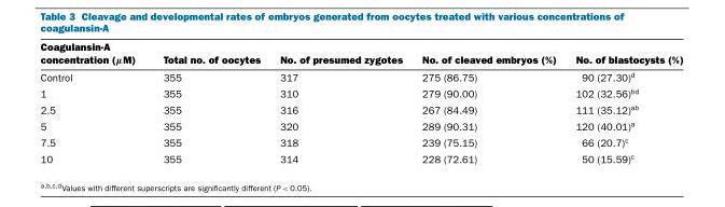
<table><thead><tr><td>Coagulansin-A concentration (μM)</td><td>Total no. of oocytes</td><td>No. of presumed zygotes</td><td>No. of cleaved embryos (%)</td><td>No. of blastocysts (%)</td></tr></thead><tbody><tr><td>Control</td><td>355</td><td>317</td><td>275 (86.75)</td><td>90 (27.30)<sup>d</sup></td></tr><tr><td>1</td><td>355</td><td>310</td><td>279 (90.00)</td><td>102 (32.56)<sup>bd</sup></td></tr><tr><td>2.5</td><td>355</td><td>316</td><td>267 (84.49)</td><td>111 (35.12)<sup>ab</sup></td></tr><tr><td>5</td><td>355</td><td>320</td><td>289 (90.31)</td><td>120 (40.01)<sup>a</sup></td></tr><tr><td>7.5</td><td>355</td><td>318</td><td>239 (75.15)</td><td>66 (20.7)<sup>c</sup></td></tr><tr><td>10</td><td>355</td><td>314</td><td>228 (72.61)</td><td>50 (15.59)<sup>c</sup></td></tr></tbody></table>